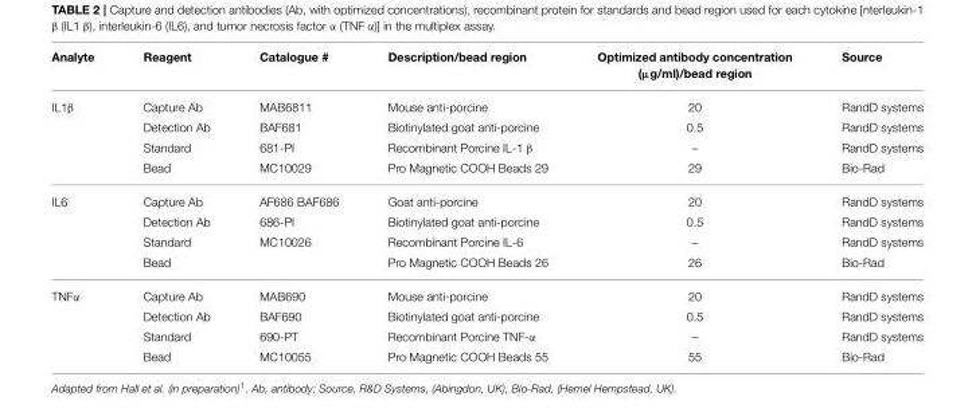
<table><thead><tr><td>Analyte</td><td>Reagent</td><td>Catalogue #</td><td>Description/bead region</td><td>Optimized antibody concentration (µg/ml)/bead region</td><td>Source</td></tr></thead><tbody><tr><td rowspan="4">IL1β</td><td>Capture Ab</td><td>MAB6811</td><td>Mouse anti-porcine</td><td>20</td><td>RandD systems</td></tr><tr><td>Detection Ab</td><td>BAF681</td><td>Biotinylated goat anti-porcine</td><td>0.5</td><td>RandD systems</td></tr><tr><td>Standard</td><td>681-PI</td><td>Recombinant Porcine IL-1 β</td><td>–</td><td>RandD systems</td></tr><tr><td>Bead</td><td>MC10029</td><td>Pro Magnetic COOH Beads 29</td><td>29</td><td>Bio-Rad</td></tr><tr><td rowspan="4">IL6</td><td>Capture Ab</td><td>AF686 BAF686</td><td>Goat anti-porcine</td><td>20</td><td>RandD systems</td></tr><tr><td>Detection Ab</td><td>686-PI</td><td>Biotinylated goat anti-porcine</td><td>0.5</td><td>RandD systems</td></tr><tr><td>Standard</td><td>MC10026</td><td>Recombinant Porcine IL-6</td><td>–</td><td>RandD systems</td></tr><tr><td>Bead</td><td></td><td>Pro Magnetic COOH Beads 26</td><td>26</td><td>Bio-Rad</td></tr><tr><td rowspan="4">TNFα</td><td>Capture Ab</td><td>MAB690</td><td>Mouse anti-porcine</td><td>20</td><td>RandD systems</td></tr><tr><td>Detection Ab</td><td>BAF690</td><td>Biotinylated goat anti-porcine</td><td>0.5</td><td>RandD systems</td></tr><tr><td>Standard</td><td>690-PT</td><td>Recombinant Porcine TNF-α</td><td>–</td><td>RandD systems</td></tr><tr><td>Bead</td><td>MC10055</td><td>Pro Magnetic COOH Beads 55</td><td>55</td><td>Bio-Rad</td></tr></tbody></table>